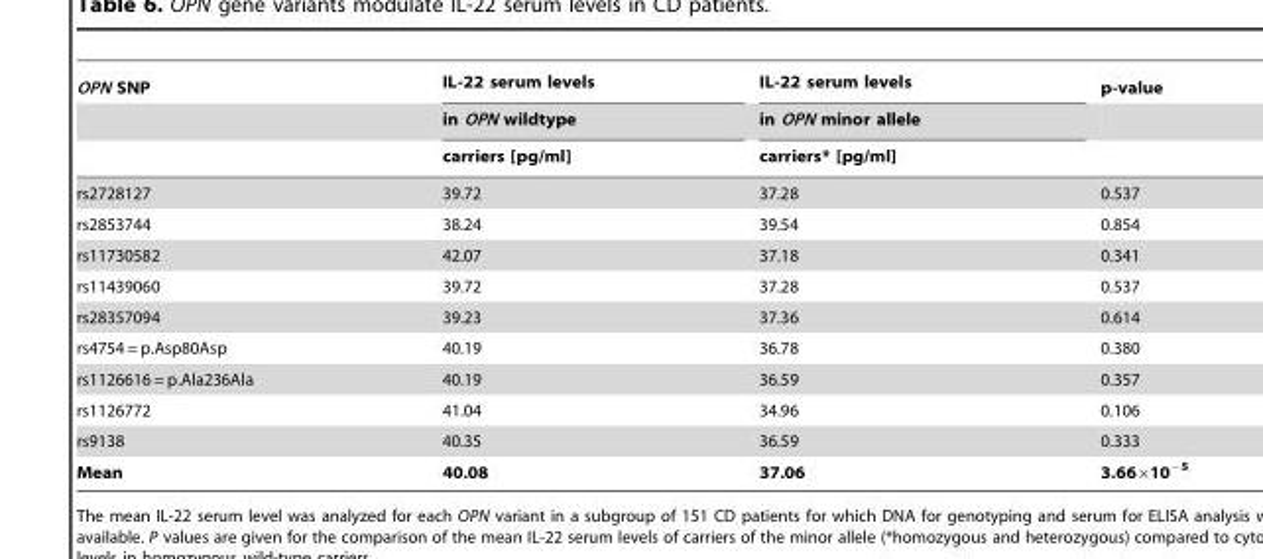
<table><thead><tr><td rowspan="3">OPN SNP</td><td rowspan="3">IL-22 serum levels in OPN wildtype carriers [pg/ml]</td><td rowspan="3">IL-22 serum levels in OPN minor allele carriers* [pg/ml]</td><td rowspan="3">p-value</td></tr><tr></tr><tr></tr></thead><tbody><tr><td>rs2728127</td><td>39.72</td><td>37.28</td><td>0.537</td></tr><tr><td>rs2853744</td><td>38.24</td><td>39.54</td><td>0.854</td></tr><tr><td>rs11730582</td><td>42.07</td><td>37.18</td><td>0.341</td></tr><tr><td>rs11439060</td><td>39.72</td><td>37.28</td><td>0.537</td></tr><tr><td>rs28357094</td><td>39.23</td><td>37.36</td><td>0.614</td></tr><tr><td>rs4754 = p.Asp80Asp</td><td>40.19</td><td>36.78</td><td>0.380</td></tr><tr><td>rs1126616 = p.Ala236Ala</td><td>40.19</td><td>36.59</td><td>0.357</td></tr><tr><td>rs1126772</td><td>41.04</td><td>34.96</td><td>0.106</td></tr><tr><td>rs9138</td><td>40.35</td><td>36.59</td><td>0.333</td></tr><tr><td>Mean</td><td>40.08</td><td>37.06</td><td>3.66×10<sup>−5</sup></td></tr></tbody></table>